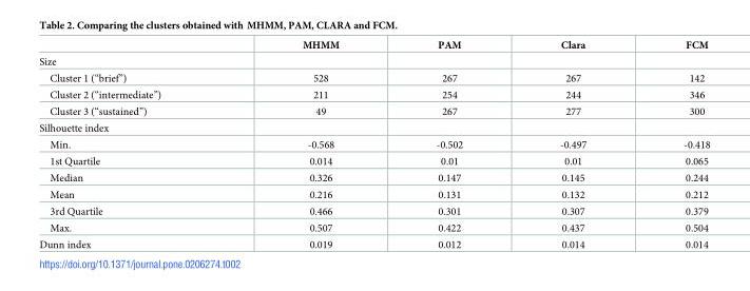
<table><thead><tr><td></td><td>MHMM</td><td>PAM</td><td>Clara</td><td>FCM</td></tr></thead><tbody><tr><td colspan="5">Size</td></tr><tr><td>Cluster 1 (“brief”)</td><td>528</td><td>267</td><td>267</td><td>142</td></tr><tr><td>Cluster 2 (“intermediate”)</td><td>211</td><td>254</td><td>244</td><td>346</td></tr><tr><td>Cluster 3 (“sustained”)</td><td>49</td><td>267</td><td>277</td><td>300</td></tr><tr><td colspan="5">Silhouette index</td></tr><tr><td>Min.</td><td>-0.568</td><td>-0.502</td><td>-0.497</td><td>-0.418</td></tr><tr><td>1st Quartile</td><td>0.014</td><td>0.01</td><td>0.01</td><td>0.065</td></tr><tr><td>Median</td><td>0.326</td><td>0.147</td><td>0.145</td><td>0.244</td></tr><tr><td>Mean</td><td>0.216</td><td>0.131</td><td>0.132</td><td>0.212</td></tr><tr><td>3rd Quartile</td><td>0.466</td><td>0.301</td><td>0.307</td><td>0.379</td></tr><tr><td>Max.</td><td>0.507</td><td>0.422</td><td>0.437</td><td>0.504</td></tr><tr><td>Dunn index</td><td>0.019</td><td>0.012</td><td>0.014</td><td>0.014</td></tr></tbody></table>